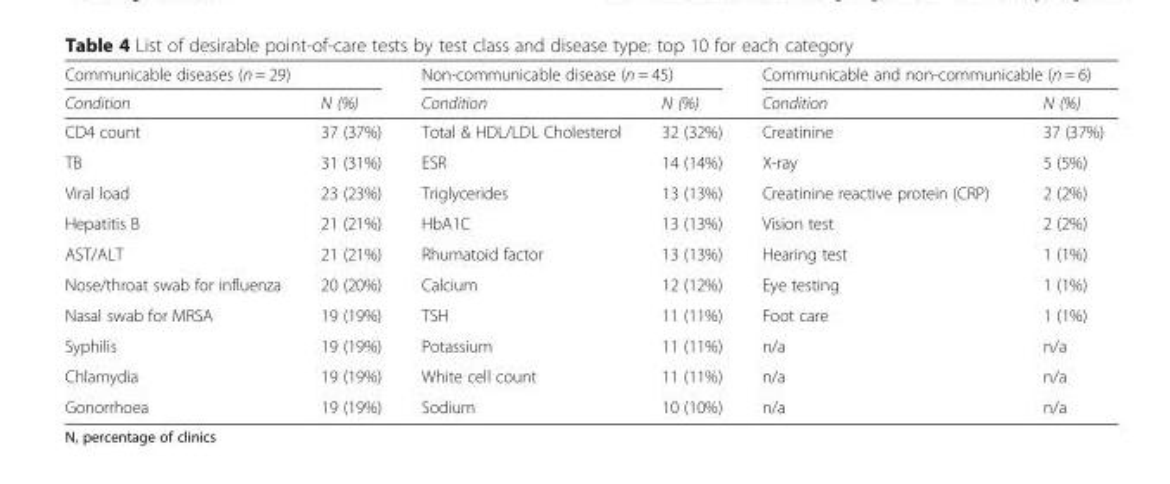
<table><thead><tr><td colspan="2">Communicable diseases (n = 29)</td><td colspan="2">Non-communicable disease (n = 45)</td><td colspan="2">Communicable and non-communicable (n = 6)</td></tr><tr><td>Condition</td><td>N (%)</td><td>Condition</td><td>N (%)</td><td>Condition</td><td>N (%)</td></tr></thead><tbody><tr><td>CD4 count</td><td>37 (37%)</td><td>Total &amp; HDL/LDL Cholesterol</td><td>32 (32%)</td><td>Creatinine</td><td>37 (37%)</td></tr><tr><td>TB</td><td>31 (31%)</td><td>ESR</td><td>14 (14%)</td><td>X-ray</td><td>5 (5%)</td></tr><tr><td>Viral load</td><td>23 (23%)</td><td>Triglycerides</td><td>13 (13%)</td><td>Creatinine reactive protein (CRP)</td><td>2 (2%)</td></tr><tr><td>Hepatitis B</td><td>21 (21%)</td><td>HbA1C</td><td>13 (13%)</td><td>Vision test</td><td>2 (2%)</td></tr><tr><td>AST/ALT</td><td>21 (21%)</td><td>Rhumatoid factor</td><td>13 (13%)</td><td>Hearing test</td><td>1 (1%)</td></tr><tr><td>Nose/throat swab for influenza</td><td>20 (20%)</td><td>Calcium</td><td>12 (12%)</td><td>Eye testing</td><td>1 (1%)</td></tr><tr><td>Nasal swab for MRSA</td><td>19 (19%)</td><td>TSH</td><td>11 (11%)</td><td>Foot care</td><td>1 (1%)</td></tr><tr><td>Syphilis</td><td>19 (19%)</td><td>Potassium</td><td>11 (11%)</td><td>n/a</td><td>n/a</td></tr><tr><td>Chlamydia</td><td>19 (19%)</td><td>White cell count</td><td>11 (11%)</td><td>n/a</td><td>n/a</td></tr><tr><td>Gonorrhoea</td><td>19 (19%)</td><td>Sodium</td><td>10 (10%)</td><td>n/a</td><td>n/a</td></tr></tbody></table>